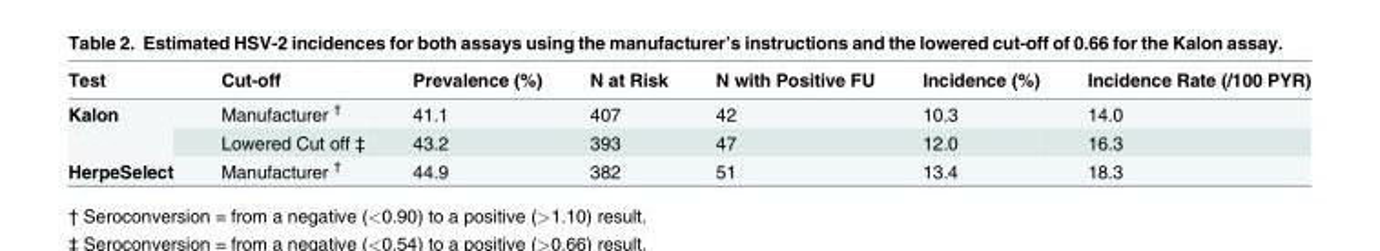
<table><thead><tr><td>Test</td><td>Cut-off</td><td>Prevalence (%)</td><td>N at Risk</td><td>N with Positive FU</td><td>Incidence (%)</td><td>Incidence Rate (/100 PYR)</td></tr></thead><tbody><tr><td rowspan="2">Kalon</td><td>Manufacturer <sup>†</sup></td><td>41.1</td><td>407</td><td>42</td><td>10.3</td><td>14.0</td></tr><tr><td>Lowered Cut off ‡</td><td>43.2</td><td>393</td><td>47</td><td>12.0</td><td>16.3</td></tr><tr><td>HerpeSelect</td><td>Manufacturer <sup>†</sup></td><td>44.9</td><td>382</td><td>51</td><td>13.4</td><td>18.3</td></tr></tbody></table>